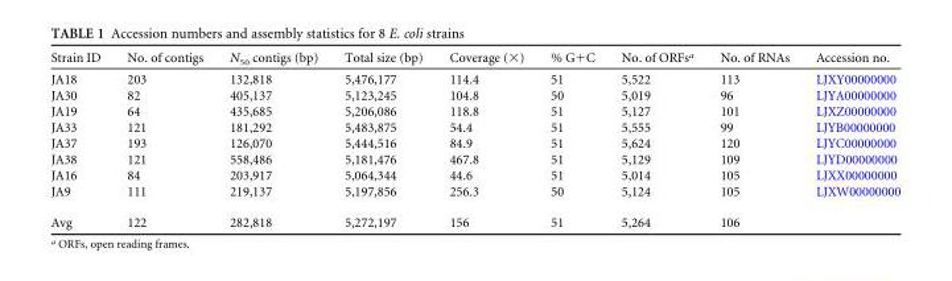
<table><thead><tr><td>Strain ID</td><td>No. of contigs</td><td>N<sub>50</sub> contigs (bp)</td><td>Total size (bp)</td><td>Coverage (×)</td><td>% G+C</td><td>No. of ORFs<sup>a</sup></td><td>No. of RNAs</td><td>Accession no.</td></tr></thead><tbody><tr><td>JA18</td><td>203</td><td>132,818</td><td>5,476,177</td><td>114.4</td><td>51</td><td>5,522</td><td>113</td><td>LJXY00000000</td></tr><tr><td>JA30</td><td>82</td><td>405,137</td><td>5,123,245</td><td>104.8</td><td>50</td><td>5,019</td><td>96</td><td>LJYA00000000</td></tr><tr><td>JA19</td><td>64</td><td>435,685</td><td>5,206,086</td><td>118.8</td><td>51</td><td>5,127</td><td>101</td><td>LJXZ00000000</td></tr><tr><td>JA33</td><td>121</td><td>181,292</td><td>5,483,875</td><td>54.4</td><td>51</td><td>5,555</td><td>99</td><td>LJYB00000000</td></tr><tr><td>JA37</td><td>193</td><td>126,070</td><td>5,444,516</td><td>84.9</td><td>51</td><td>5,624</td><td>120</td><td>LJYC00000000</td></tr><tr><td>JA38</td><td>121</td><td>558,486</td><td>5,181,476</td><td>467.8</td><td>51</td><td>5,129</td><td>109</td><td>LJYD00000000</td></tr><tr><td>JA16</td><td>84</td><td>203,917</td><td>5,064,344</td><td>44.6</td><td>51</td><td>5,014</td><td>105</td><td>LJXX00000000</td></tr><tr><td>JA9</td><td>111</td><td>219,137</td><td>5,197,856</td><td>256.3</td><td>50</td><td>5,124</td><td>105</td><td>LJXW00000000</td></tr><tr><td>Avg</td><td>122</td><td>282,818</td><td>5,272,197</td><td>156</td><td>51</td><td>5,264</td><td>106</td><td></td></tr></tbody></table>